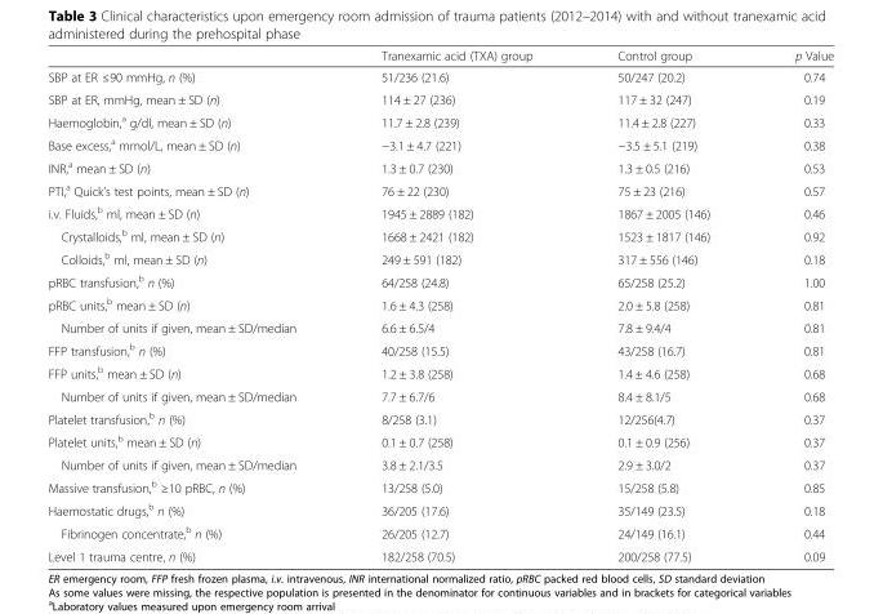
<table><thead><tr><td></td><td>Tranexamic acid (TXA) group</td><td>Control group</td><td>p Value</td></tr></thead><tbody><tr><td>SBP at ER ≤90 mmHg, n (%)</td><td>51/236 (21.6)</td><td>50/247 (20.2)</td><td>0.74</td></tr><tr><td>SBP at ER, mmHg, mean ± SD (n)</td><td>114 ± 27 (236)</td><td>117 ± 32 (247)</td><td>0.19</td></tr><tr><td>Haemoglobin,<sup>a</sup> g/dl, mean ± SD (n)</td><td>11.7 ± 2.8 (239)</td><td>11.4 ± 2.8 (227)</td><td>0.33</td></tr><tr><td>Base excess,<sup>a</sup> mmol/L, mean ± SD (n)</td><td>−3.1 ± 4.7 (221)</td><td>−3.5 ± 5.1 (219)</td><td>0.38</td></tr><tr><td>INR,<sup>a</sup> mean ± SD (n)</td><td>1.3 ± 0.7 (230)</td><td>1.3 ± 0.5 (216)</td><td>0.53</td></tr><tr><td>PTI,<sup>a</sup> Quick’s test points, mean ± SD (n)</td><td>76 ± 22 (230)</td><td>75 ± 23 (216)</td><td>0.57</td></tr><tr><td>i.v. Fluids,<sup>b</sup> ml, mean ± SD (n)</td><td>1945 ± 2889 (182)</td><td>1867 ± 2005 (146)</td><td>0.46</td></tr><tr><td>Crystalloids,<sup>b</sup> ml, mean ± SD (n)</td><td>1668 ± 2421 (182)</td><td>1523 ± 1817 (146)</td><td>0.92</td></tr><tr><td>Colloids,<sup>b</sup> ml, mean ± SD (n)</td><td>249 ± 591 (182)</td><td>317 ± 556 (146)</td><td>0.18</td></tr><tr><td>pRBC transfusion,<sup>b</sup> n (%)</td><td>64/258 (24.8)</td><td>65/258 (25.2)</td><td>1.00</td></tr><tr><td>pRBC units,<sup>b</sup> mean ± SD (n)</td><td>1.6 ± 4.3 (258)</td><td>2.0 ± 5.8 (258)</td><td>0.81</td></tr><tr><td>Number of units if given, mean ± SD/median</td><td>6.6 ± 6.5/4</td><td>7.8 ± 9.4/4</td><td>0.81</td></tr><tr><td>FFP transfusion,<sup>b</sup> n (%)</td><td>40/258 (15.5)</td><td>43/258 (16.7)</td><td>0.81</td></tr><tr><td>FFP units,<sup>b</sup> mean ± SD (n)</td><td>1.2 ± 3.8 (258)</td><td>1.4 ± 4.6 (258)</td><td>0.68</td></tr><tr><td>Number of units if given, mean ± SD/median</td><td>7.7 ± 6.7/6</td><td>8.4 ± 8.1/5</td><td>0.68</td></tr><tr><td>Platelet transfusion,<sup>b</sup> n (%)</td><td>8/258 (3.1)</td><td>12/256(4.7)</td><td>0.37</td></tr><tr><td>Platelet units,<sup>b</sup> mean ± SD (n)</td><td>0.1 ± 0.7 (258)</td><td>0.1 ± 0.9 (256)</td><td>0.37</td></tr><tr><td>Number of units if given, mean ± SD/median</td><td>3.8 ± 2.1/3.5</td><td>2.9 ± 3.0/2</td><td>0.37</td></tr><tr><td>Massive transfusion,<sup>b</sup> ≥10 pRBC, n (%)</td><td>13/258 (5.0)</td><td>15/258 (5.8)</td><td>0.85</td></tr><tr><td>Haemostatic drugs,<sup>b</sup> n (%)</td><td>36/205 (17.6)</td><td>35/149 (23.5)</td><td>0.18</td></tr><tr><td>Fibrinogen concentrate,<sup>b</sup> n (%)</td><td>26/205 (12.7)</td><td>24/149 (16.1)</td><td>0.44</td></tr><tr><td>Level 1 trauma centre, n (%)</td><td>182/258 (70.5)</td><td>200/258 (77.5)</td><td>0.09</td></tr></tbody></table>